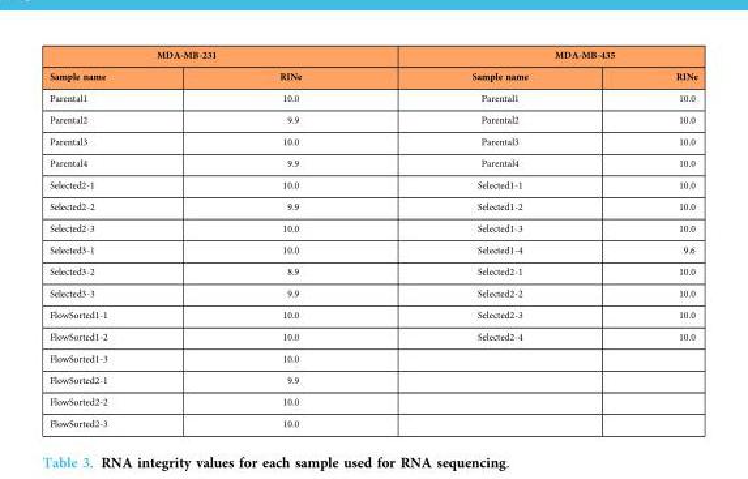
<table><thead><tr><td colspan="2">MDA-MB-231</td><td colspan="2">MDA-MB-435</td></tr><tr><td>Sample name</td><td>RINe</td><td>Sample name</td><td>RINe</td></tr></thead><tbody><tr><td>Parental1</td><td>10.0</td><td>Parental1</td><td>10.0</td></tr><tr><td>Parental2</td><td>9.9</td><td>Parental2</td><td>10.0</td></tr><tr><td>Parental3</td><td>10.0</td><td>Parental3</td><td>10.0</td></tr><tr><td>Parental4</td><td>9.9</td><td>Parental4</td><td>10.0</td></tr><tr><td>Selected2-1</td><td>10.0</td><td>Selected1-1</td><td>10.0</td></tr><tr><td>Selected2-2</td><td>9.9</td><td>Selected1-2</td><td>10.0</td></tr><tr><td>Selected2-3</td><td>10.0</td><td>Selected1-3</td><td>10.0</td></tr><tr><td>Selected3-1</td><td>10.0</td><td>Selected1-4</td><td>9.6</td></tr><tr><td>Selected3-2</td><td>8.9</td><td>Selected2-1</td><td>10.0</td></tr><tr><td>Selected3-3</td><td>9.9</td><td>Selected2-2</td><td>10.0</td></tr><tr><td>FlowSorted1-1</td><td>10.0</td><td>Selected2-3</td><td>10.0</td></tr><tr><td>FlowSorted1-2</td><td>10.0</td><td>Selected2-4</td><td>10.0</td></tr><tr><td>FlowSorted1-3</td><td>10.0</td><td></td><td></td></tr><tr><td>FlowSorted2-1</td><td>9.9</td><td></td><td></td></tr><tr><td>FlowSorted2-2</td><td>10.0</td><td></td><td></td></tr><tr><td>FlowSorted2-3</td><td>10.0</td><td></td><td></td></tr></tbody></table>